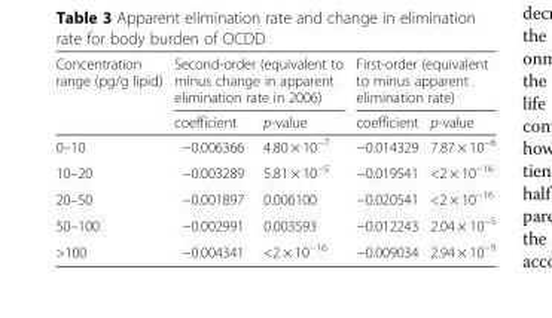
<table><thead><tr><td rowspan="2">Concentration range (pg/g lipid)</td><td colspan="2">Second-order (equivalent to minus change in apparent elimination rate in 2006)</td><td colspan="2">First-order (equivalent to minus apparent elimination rate)</td></tr><tr><td>coefficient</td><td>p-value</td><td>coefficient</td><td>p-value</td></tr></thead><tbody><tr><td>0–10</td><td>−0.006366</td><td>4.80 × 10<sup>−7</sup></td><td>−0.014329</td><td>7.87 × 10<sup>−6</sup></td></tr><tr><td>10–20</td><td>−0.003289</td><td>5.81 × 10<sup>−5</sup></td><td>−0.019541</td><td>&lt;2 × 10<sup>−16</sup></td></tr><tr><td>20–50</td><td>−0.001897</td><td>0.006100</td><td>−0.020541</td><td>&lt;2 × 10<sup>−16</sup></td></tr><tr><td>50–100</td><td>−0.002991</td><td>0.003593</td><td>−0.012243</td><td>2.04 × 10<sup>−5</sup></td></tr><tr><td>&gt;100</td><td>−0.004341</td><td>&lt;2 × 10<sup>−16</sup></td><td>−0.009034</td><td>2.94 × 10<sup>−9</sup></td></tr></tbody></table>